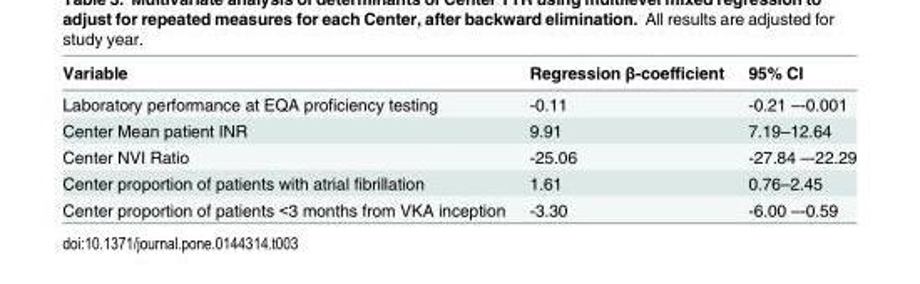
<table><thead><tr><td>Variable</td><td>Regression β-coefficient</td><td>95% CI</td></tr></thead><tbody><tr><td>Laboratory performance at EQA proficiency testing</td><td>-0.11</td><td>-0.21 –-0.001</td></tr><tr><td>Center Mean patient INR</td><td>9.91</td><td>7.19–12.64</td></tr><tr><td>Center NVI Ratio</td><td>-25.06</td><td>-27.84 –-22.29</td></tr><tr><td>Center proportion of patients with atrial fibrillation</td><td>1.61</td><td>0.76–2.45</td></tr><tr><td>Center proportion of patients &lt;3 months from VKA inception</td><td>-3.30</td><td>-6.00 –-0.59</td></tr></tbody></table>